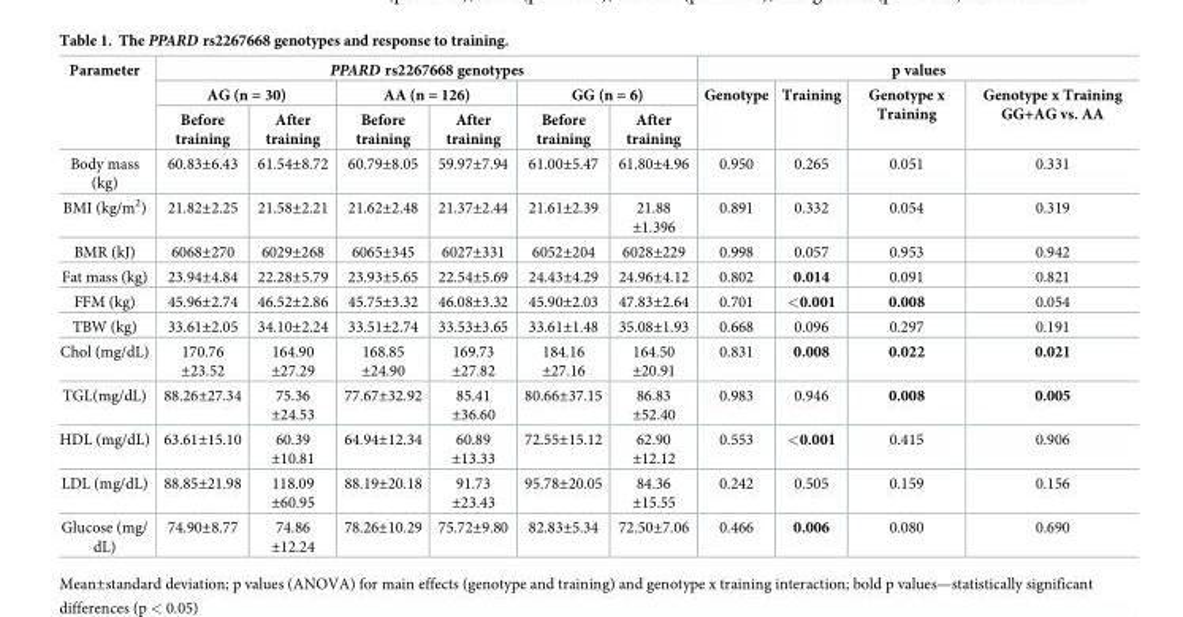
<table><thead><tr><td rowspan="3">Parameter</td><td colspan="6">PPARD rs2267668 genotypes</td><td colspan="4">p values</td></tr><tr><td colspan="2">AG (n = 30)</td><td colspan="2">AA (n = 126)</td><td colspan="2">GG (n = 6)</td><td rowspan="2">Genotype</td><td rowspan="2">Training</td><td rowspan="2">Genotype x Training</td><td rowspan="2">Genotype x Training GG+AG vs. AA</td></tr><tr><td>Before training</td><td>After training</td><td>Before training</td><td>After training</td><td>Before training</td><td>After training</td></tr></thead><tbody><tr><td>Body mass (kg)</td><td>60.83±6.43</td><td>61.54±8.72</td><td>60.79±8.05</td><td>59.97±7.94</td><td>61.00±5.47</td><td>61.80±4.96</td><td>0.950</td><td>0.265</td><td>0.051</td><td>0.331</td></tr><tr><td>BMI (kg/m<sup>2</sup>)</td><td>21.82±2.25</td><td>21.58±2.21</td><td>21.62±2.48</td><td>21.37±2.44</td><td>21.61±2.39</td><td>21.88 ±1.396</td><td>0.891</td><td>0.332</td><td>0.054</td><td>0.319</td></tr><tr><td>BMR (kJ)</td><td>6068±270</td><td>6029±268</td><td>6065±345</td><td>6027±331</td><td>6052±204</td><td>6028±229</td><td>0.998</td><td>0.057</td><td>0.953</td><td>0.942</td></tr><tr><td>Fat mass (kg)</td><td>23.94±4.84</td><td>22.28±5.79</td><td>23.93±5.65</td><td>22.54±5.69</td><td>24.43±4.29</td><td>24.96±4.12</td><td>0.802</td><td>0.014</td><td>0.091</td><td>0.821</td></tr><tr><td>FFM (kg)</td><td>45.96±2.74</td><td>46.52±2.86</td><td>45.75±3.32</td><td>46.08±3.32</td><td>45.90±2.03</td><td>47.83±2.64</td><td>0.701</td><td>&lt;0.001</td><td>0.008</td><td>0.054</td></tr><tr><td>TBW (kg)</td><td>33.61±2.05</td><td>34.10±2.24</td><td>33.51±2.74</td><td>33.53±3.65</td><td>33.61±1.48</td><td>35.08±1.93</td><td>0.668</td><td>0.096</td><td>0.297</td><td>0.191</td></tr><tr><td>Chol (mg/dL)</td><td>170.76 ±23.52</td><td>164.90 ±27.29</td><td>168.85 ±24.90</td><td>169.73 ±27.82</td><td>184.16 ±27.16</td><td>164.50 ±20.91</td><td>0.831</td><td>0.008</td><td>0.022</td><td>0.021</td></tr><tr><td>TGL(mg/dL)</td><td>88.26±27.34</td><td>75.36 ±24.53</td><td>77.67±32.92</td><td>85.41 ±36.60</td><td>80.66±37.15</td><td>86.83 ±52.40</td><td>0.983</td><td>0.946</td><td>0.008</td><td>0.005</td></tr><tr><td>HDL (mg/dL)</td><td>63.61±15.10</td><td>60.39 ±10.81</td><td>64.94±12.34</td><td>60.89 ±13.33</td><td>72.55±15.12</td><td>62.90 ±12.12</td><td>0.553</td><td>&lt;0.001</td><td>0.415</td><td>0.906</td></tr><tr><td>LDL (mg/dL)</td><td>88.85±21.98</td><td>118.09 ±60.95</td><td>88.19±20.18</td><td>91.73 ±23.43</td><td>95.78±20.05</td><td>84.36 ±15.55</td><td>0.242</td><td>0.505</td><td>0.159</td><td>0.156</td></tr><tr><td>Glucose (mg/ dL)</td><td>74.90±8.77</td><td>74.86 ±12.24</td><td>78.26±10.29</td><td>75.72±9.80</td><td>82.83±5.34</td><td>72.50±7.06</td><td>0.466</td><td>0.006</td><td>0.080</td><td>0.690</td></tr></tbody></table>